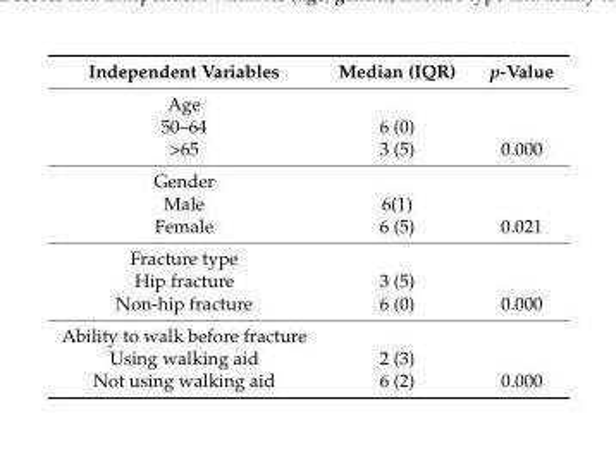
<table><thead><tr><td>Independent Variables</td><td>Median (IQR)</td><td>p-Value</td></tr></thead><tbody><tr><td colspan="3">Age</td></tr><tr><td>50–64</td><td>6 (0)</td><td></td></tr><tr><td>&gt;65</td><td>3 (5)</td><td>0.000</td></tr><tr><td colspan="3">Gender</td></tr><tr><td>Male</td><td>6(1)</td><td></td></tr><tr><td>Female</td><td>6 (5)</td><td>0.021</td></tr><tr><td colspan="3">Fracture type</td></tr><tr><td>Hip fracture</td><td>3 (5)</td><td></td></tr><tr><td>Non-hip fracture</td><td>6 (0)</td><td>0.000</td></tr><tr><td colspan="3">Ability to walk before fracture</td></tr><tr><td>Using walking aid</td><td>2 (3)</td><td></td></tr><tr><td>Not using walking aid</td><td>6 (2)</td><td>0.000</td></tr></tbody></table>